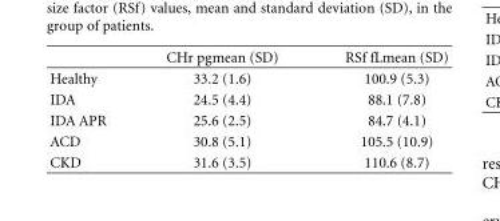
<table><thead><tr><td></td><td>CHr pgmean (SD)</td><td>RSf fLmean (SD)</td></tr></thead><tbody><tr><td>Healthy</td><td>33.2 (1.6)</td><td>100.9 (5.3)</td></tr><tr><td>IDA</td><td>24.5 (4.4)</td><td>88.1 (7.8)</td></tr><tr><td>IDA APR</td><td>25.6 (2.5)</td><td>84.7 (4.1)</td></tr><tr><td>ACD</td><td>30.8 (5.1)</td><td>105.5 (10.9)</td></tr><tr><td>CKD</td><td>31.6 (3.5)</td><td>110.6 (8.7)</td></tr></tbody></table>